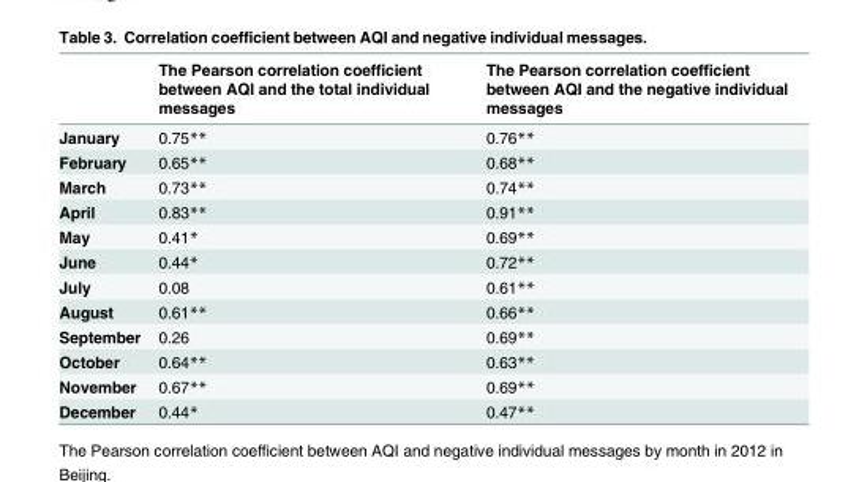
<table><thead><tr><td></td><td>The Pearson correlation coefficient between AQI and the total individual messages</td><td>The Pearson correlation coefficient between AQI and the negative individual messages</td></tr></thead><tbody><tr><td>January</td><td>0.75**</td><td>0.76**</td></tr><tr><td>February</td><td>0.65**</td><td>0.68**</td></tr><tr><td>March</td><td>0.73**</td><td>0.74**</td></tr><tr><td>April</td><td>0.83**</td><td>0.91**</td></tr><tr><td>May</td><td>0.41*</td><td>0.69**</td></tr><tr><td>June</td><td>0.44*</td><td>0.72**</td></tr><tr><td>July</td><td>0.08</td><td>0.61**</td></tr><tr><td>August</td><td>0.61**</td><td>0.66**</td></tr><tr><td>September</td><td>0.26</td><td>0.69**</td></tr><tr><td>October</td><td>0.64**</td><td>0.63**</td></tr><tr><td>November</td><td>0.67**</td><td>0.69**</td></tr><tr><td>December</td><td>0.44*</td><td>0.47**</td></tr></tbody></table>